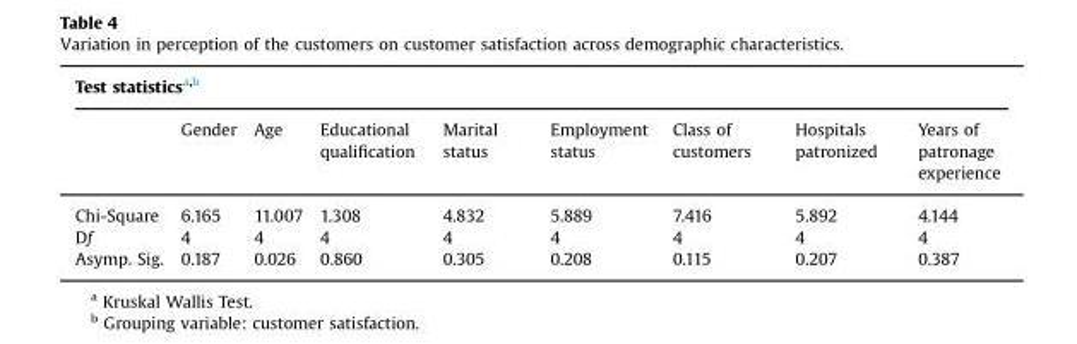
<table><thead><tr><td colspan="9">Test statistics<sup>a,b</sup></td></tr><tr><td></td><td>Gender</td><td>Age</td><td>Educational qualification</td><td>Marital status</td><td>Employment status</td><td>Class of customers</td><td>Hospitals patronized</td><td>Years of patronage experience</td></tr></thead><tbody><tr><td>Chi-Square</td><td>6.165</td><td>11.007</td><td>1.308</td><td>4.832</td><td>5.889</td><td>7.416</td><td>5.892</td><td>4.144</td></tr><tr><td>Df</td><td>4</td><td>4</td><td>4</td><td>4</td><td>4</td><td>4</td><td>4</td><td>4</td></tr><tr><td>Asymp. Sig.</td><td>0.187</td><td>0.026</td><td>0.860</td><td>0.305</td><td>0.208</td><td>0.115</td><td>0.207</td><td>0.387</td></tr></tbody></table>